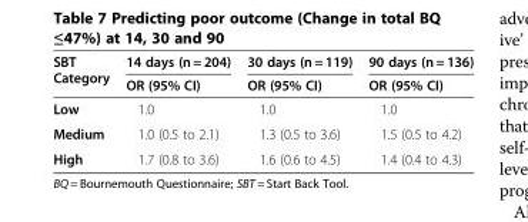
<table><thead><tr><td rowspan="2">SBT Category</td><td rowspan="2">14 days (n = 204) OR (95% CI)</td><td rowspan="2">30 days (n = 119) OR (95% CI)</td><td rowspan="2">90 days (n = 136) OR (95% CI)</td></tr><tr></tr></thead><tbody><tr><td>Low</td><td>1.0</td><td>1.0</td><td>1.0</td></tr><tr><td>Medium</td><td>1.0 (0.5 to 2.1)</td><td>1.3 (0.5 to 3.6)</td><td>1.5 (0.5 to 4.2)</td></tr><tr><td>High</td><td>1.7 (0.8 to 3.6)</td><td>1.6 (0.6 to 4.5)</td><td>1.4 (0.4 to 4.3)</td></tr></tbody></table>